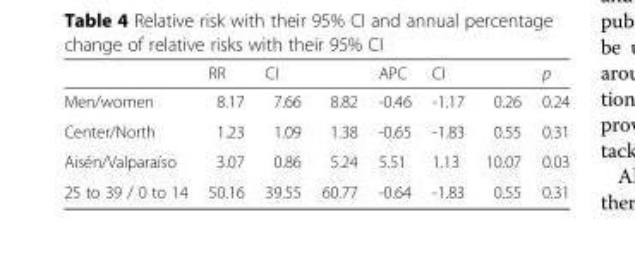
<table><thead><tr><td rowspan="2">Men/women</td><td rowspan="2">RR 8.17</td><td colspan="2">CI</td><td rowspan="2">APC -0.46</td><td colspan="2">CI</td><td rowspan="2">p 0.24</td></tr><tr><td>7.66</td><td>8.82</td><td>-1.17</td><td>0.26</td></tr></thead><tbody><tr><td>Center/North</td><td>1.23</td><td>1.09</td><td>1.38</td><td>-0.65</td><td>-1.83</td><td>0.55</td><td>0.31</td></tr><tr><td>Aisén/Valparaíso</td><td>3.07</td><td>0.86</td><td>5.24</td><td>5.51</td><td>1.13</td><td>10.07</td><td>0.03</td></tr><tr><td>25 to 39 / 0 to 14</td><td>50.16</td><td>39.55</td><td>60.77</td><td>-0.64</td><td>-1.83</td><td>0.55</td><td>0.31</td></tr></tbody></table>